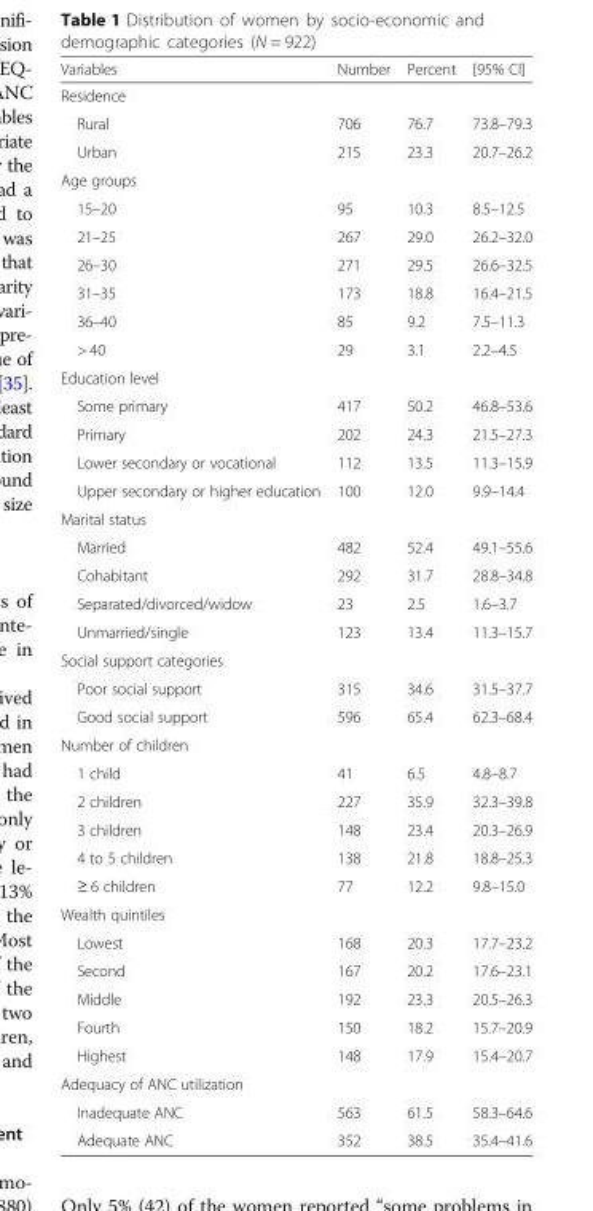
<table><thead><tr><td>Variables</td><td>Number</td><td>Percent</td><td>[95% CI]</td></tr></thead><tbody><tr><td colspan="4">Residence</td></tr><tr><td>Rural</td><td>706</td><td>76.7</td><td>73.8–79.3</td></tr><tr><td>Urban</td><td>215</td><td>23.3</td><td>20.7–26.2</td></tr><tr><td colspan="4">Age groups</td></tr><tr><td>15–20</td><td>95</td><td>10.3</td><td>8.5–12.5</td></tr><tr><td>21–25</td><td>267</td><td>29.0</td><td>26.2–32.0</td></tr><tr><td>26–30</td><td>271</td><td>29.5</td><td>26.6–32.5</td></tr><tr><td>31–35</td><td>173</td><td>18.8</td><td>16.4–21.5</td></tr><tr><td>36–40</td><td>85</td><td>9.2</td><td>7.5–11.3</td></tr><tr><td>&gt; 40</td><td>29</td><td>3.1</td><td>2.2–4.5</td></tr><tr><td colspan="4">Education level</td></tr><tr><td>Some primary</td><td>417</td><td>50.2</td><td>46.8–53.6</td></tr><tr><td>Primary</td><td>202</td><td>24.3</td><td>21.5–27.3</td></tr><tr><td>Lower secondary or vocational</td><td>112</td><td>13.5</td><td>11.3–15.9</td></tr><tr><td>Upper secondary or higher education</td><td>100</td><td>12.0</td><td>9.9–14.4</td></tr><tr><td colspan="4">Marital status</td></tr><tr><td>Married</td><td>482</td><td>52.4</td><td>49.1–55.6</td></tr><tr><td>Cohabitant</td><td>292</td><td>31.7</td><td>28.8–34.8</td></tr><tr><td>Separated/divorced/widow</td><td>23</td><td>2.5</td><td>1.6–3.7</td></tr><tr><td>Unmarried/single</td><td>123</td><td>13.4</td><td>11.3–15.7</td></tr><tr><td colspan="4">Social support categories</td></tr><tr><td>Poor social support</td><td>315</td><td>34.6</td><td>31.5–37.7</td></tr><tr><td>Good social support</td><td>596</td><td>65.4</td><td>62.3–68.4</td></tr><tr><td colspan="4">Number of children</td></tr><tr><td>1 child</td><td>41</td><td>6.5</td><td>4.8–8.7</td></tr><tr><td>2 children</td><td>227</td><td>35.9</td><td>32.3–39.8</td></tr><tr><td>3 children</td><td>148</td><td>23.4</td><td>20.3–26.9</td></tr><tr><td>4 to 5 children</td><td>138</td><td>21.8</td><td>18.8–25.3</td></tr><tr><td>≥ 6 children</td><td>77</td><td>12.2</td><td>9.8–15.0</td></tr><tr><td colspan="4">Wealth quintiles</td></tr><tr><td>Lowest</td><td>168</td><td>20.3</td><td>17.7–23.2</td></tr><tr><td>Second</td><td>167</td><td>20.2</td><td>17.6–23.1</td></tr><tr><td>Middle</td><td>192</td><td>23.3</td><td>20.5–26.3</td></tr><tr><td>Fourth</td><td>150</td><td>18.2</td><td>15.7–20.9</td></tr><tr><td>Highest</td><td>148</td><td>17.9</td><td>15.4–20.7</td></tr><tr><td colspan="4">Adequacy of ANC utilization</td></tr><tr><td>Inadequate ANC</td><td>563</td><td>61.5</td><td>58.3–64.6</td></tr><tr><td>Adequate ANC</td><td>352</td><td>38.5</td><td>35.4–41.6</td></tr></tbody></table>